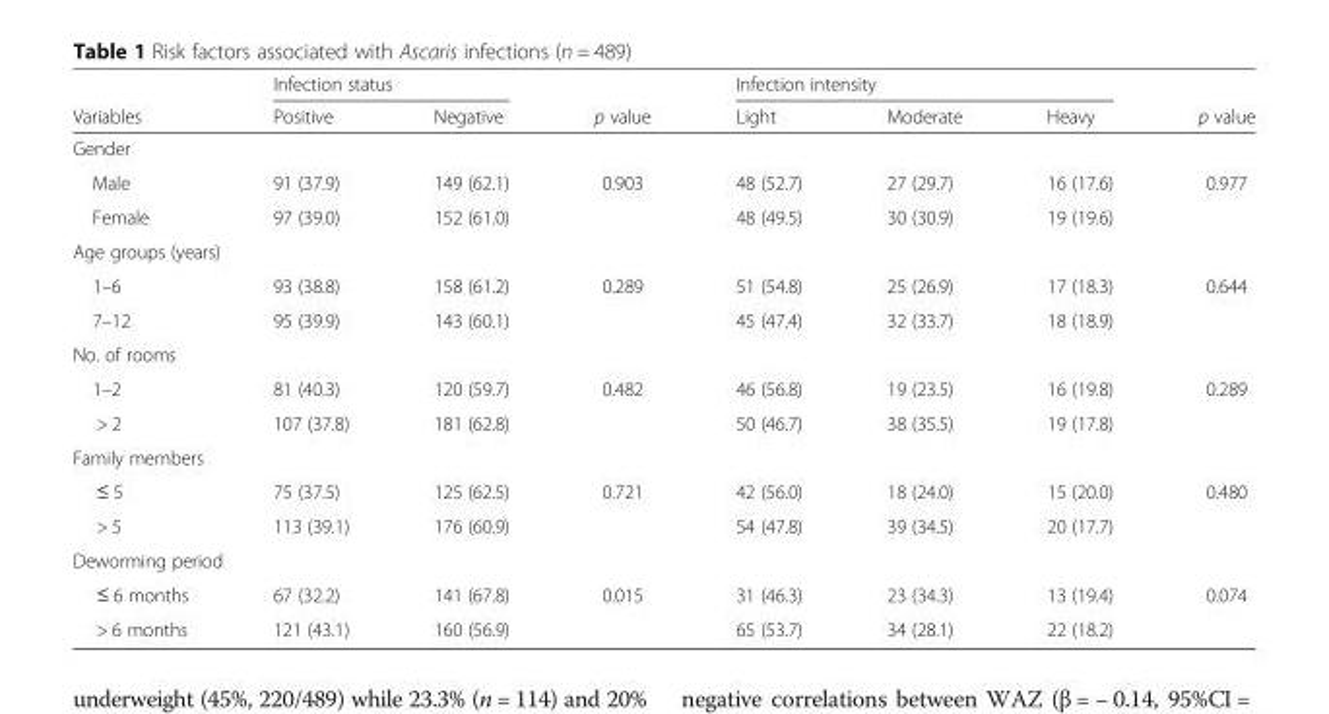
<table><thead><tr><td rowspan="2">Variables</td><td colspan="2">Infection status</td><td rowspan="2">p value</td><td colspan="3">Infection intensity</td><td rowspan="2">p value</td></tr><tr><td>Positive</td><td>Negative</td><td>Light</td><td>Moderate</td><td>Heavy</td></tr></thead><tbody><tr><td colspan="8">Gender</td></tr><tr><td>Male</td><td>91 (37.9)</td><td>149 (62.1)</td><td>0.903</td><td>48 (52.7)</td><td>27 (29.7)</td><td>16 (17.6)</td><td>0.977</td></tr><tr><td>Female</td><td>97 (39.0)</td><td>152 (61.0)</td><td></td><td>48 (49.5)</td><td>30 (30.9)</td><td>19 (19.6)</td><td></td></tr><tr><td colspan="8">Age groups (years)</td></tr><tr><td>1–6</td><td>93 (38.8)</td><td>158 (61.2)</td><td>0.289</td><td>51 (54.8)</td><td>25 (26.9)</td><td>17 (18.3)</td><td>0.644</td></tr><tr><td>7–12</td><td>95 (39.9)</td><td>143 (60.1)</td><td></td><td>45 (47.4)</td><td>32 (33.7)</td><td>18 (18.9)</td><td></td></tr><tr><td colspan="8">No. of rooms</td></tr><tr><td>1–2</td><td>81 (40.3)</td><td>120 (59.7)</td><td>0.482</td><td>46 (56.8)</td><td>19 (23.5)</td><td>16 (19.8)</td><td>0.289</td></tr><tr><td>&gt; 2</td><td>107 (37.8)</td><td>181 (62.8)</td><td></td><td>50 (46.7)</td><td>38 (35.5)</td><td>19 (17.8)</td><td></td></tr><tr><td colspan="8">Family members</td></tr><tr><td>≤ 5</td><td>75 (37.5)</td><td>125 (62.5)</td><td>0.721</td><td>42 (56.0)</td><td>18 (24.0)</td><td>15 (20.0)</td><td>0.480</td></tr><tr><td>&gt; 5</td><td>113 (39.1)</td><td>176 (60.9)</td><td></td><td>54 (47.8)</td><td>39 (34.5)</td><td>20 (17.7)</td><td></td></tr><tr><td colspan="8">Deworming period</td></tr><tr><td>≤ 6 months</td><td>67 (32.2)</td><td>141 (67.8)</td><td>0.015</td><td>31 (46.3)</td><td>23 (34.3)</td><td>13 (19.4)</td><td>0.074</td></tr><tr><td>&gt; 6 months</td><td>121 (43.1)</td><td>160 (56.9)</td><td></td><td>65 (53.7)</td><td>34 (28.1)</td><td>22 (18.2)</td><td></td></tr></tbody></table>